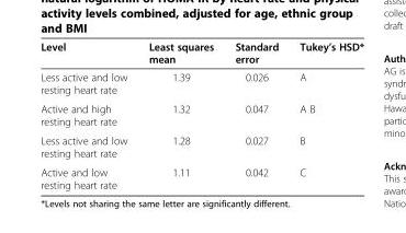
<table><thead><tr><td>Level</td><td>Least squares mean</td><td>Standard error</td><td>Tukey’s HSD*</td></tr></thead><tbody><tr><td>Less active and low resting heart rate</td><td>1.39</td><td>0.026</td><td>A</td></tr><tr><td>Active and high resting heart rate</td><td>1.32</td><td>0.047</td><td>A B</td></tr><tr><td>Less active and low resting heart rate</td><td>1.28</td><td>0.027</td><td>B</td></tr><tr><td>Active and low resting heart rate</td><td>1.11</td><td>0.042</td><td>C</td></tr></tbody></table>